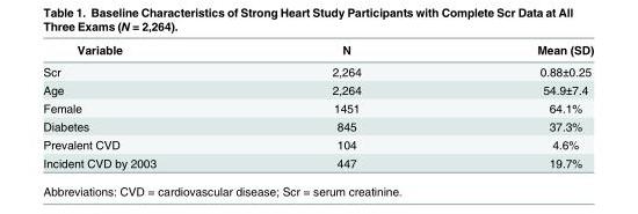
<table><thead><tr><td>Variable</td><td>N</td><td>Mean (SD)</td></tr></thead><tbody><tr><td>Scr</td><td>2,264</td><td>0.88±0.25</td></tr><tr><td>Age</td><td>2,264</td><td>54.9±7.4</td></tr><tr><td>Female</td><td>1451</td><td>64.1%</td></tr><tr><td>Diabetes</td><td>845</td><td>37.3%</td></tr><tr><td>Prevalent CVD</td><td>104</td><td>4.6%</td></tr><tr><td>Incident CVD by 2003</td><td>447</td><td>19.7%</td></tr></tbody></table>